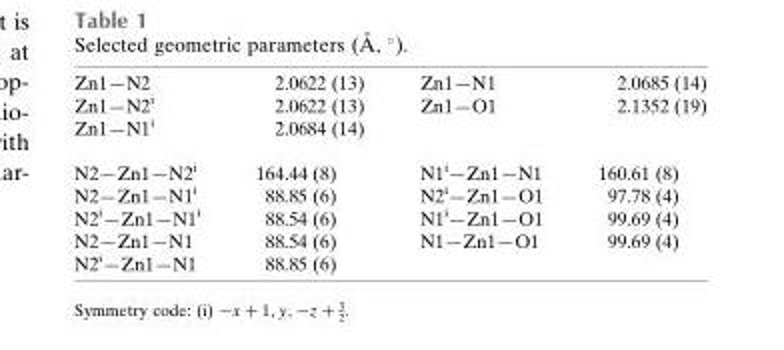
<table><tbody><tr><td>Zn1—N2</td><td>2.0622 (13)</td><td>Zn1—N1</td><td>2.0685 (14)</td></tr><tr><td>Zn1—N2<sup>i</sup></td><td>2.0622 (13)</td><td>Zn1—O1</td><td>2.1352 (19)</td></tr><tr><td>Zn1—N1<sup>i</sup></td><td>2.0684 (14)</td><td></td><td></td></tr><tr><td>N2—Zn1—N2<sup>i</sup></td><td>164.44 (8)</td><td>N1<sup>i</sup>—Zn1—N1</td><td>160.61 (8)</td></tr><tr><td>N2—Zn1—N1<sup>i</sup></td><td>88.85 (6)</td><td>N2<sup>i</sup>—Zn1—O1</td><td>97.78 (4)</td></tr><tr><td>N2<sup>i</sup>—Zn1—N1<sup>i</sup></td><td>88.54 (6)</td><td>N1<sup>i</sup>—Zn1—O1</td><td>99.69 (4)</td></tr><tr><td>N2—Zn1—N1</td><td>88.54 (6)</td><td>N1—Zn1—O1</td><td>99.69 (4)</td></tr><tr><td>N2<sup>i</sup>—Zn1—N1</td><td>88.85 (6)</td><td></td><td></td></tr></tbody></table>